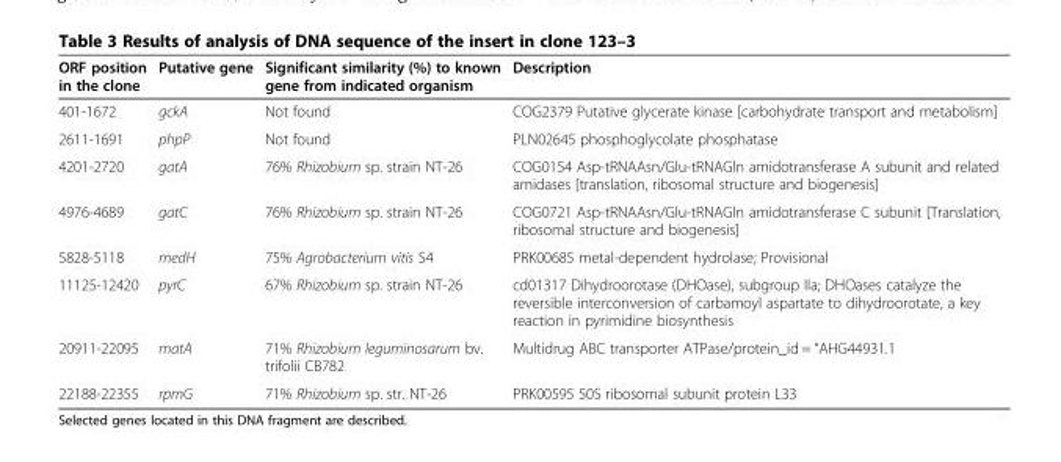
<table><thead><tr><td>ORF position in the clone</td><td>Putative gene</td><td>Significant similarity (%) to known gene from indicated organism</td><td>Description</td></tr></thead><tbody><tr><td>401-1672</td><td>gckA</td><td>Not found</td><td>COG2379 Putative glycerate kinase [carbohydrate transport and metabolism]</td></tr><tr><td>2611-1691</td><td>phpP</td><td>Not found</td><td>PLN02645 phosphoglycolate phosphatase</td></tr><tr><td>4201-2720</td><td>gatA</td><td>76% Rhizobium sp. strain NT-26</td><td>COG0154 Asp-tRNAAsn/Glu-tRNAGln amidotransferase A subunit and related amidases [translation, ribosomal structure and biogenesis]</td></tr><tr><td>4976-4689</td><td>gatC</td><td>76% Rhizobium sp. strain NT-26</td><td>COG0721 Asp-tRNAAsn/Glu-tRNAGln amidotransferase C subunit [Translation, ribosomal structure and biogenesis]</td></tr><tr><td>5828-5118</td><td>medH</td><td>75% Agrobacterium vitis S4</td><td>PRK00685 metal-dependent hydrolase; Provisional</td></tr><tr><td>11125-12420</td><td>pyrC</td><td>67% Rhizobium sp. strain NT-26</td><td>cd01317 Dihydroorotase (DHOase), subgroup IIa; DHOases catalyze the reversible interconversion of carbamoyl aspartate to dihydroorotate, a key reaction in pyrimidine biosynthesis</td></tr><tr><td>20911-22095</td><td>matA</td><td>71% Rhizobium leguminosarum bv. trifolii CB782</td><td>Multidrug ABC transporter ATPase/protein_id = “AHG44931.1</td></tr><tr><td>22188-22355</td><td>rpmG</td><td>71% Rhizobium sp. str. NT-26</td><td>PRK00595 50S ribosomal subunit protein L33</td></tr></tbody></table>